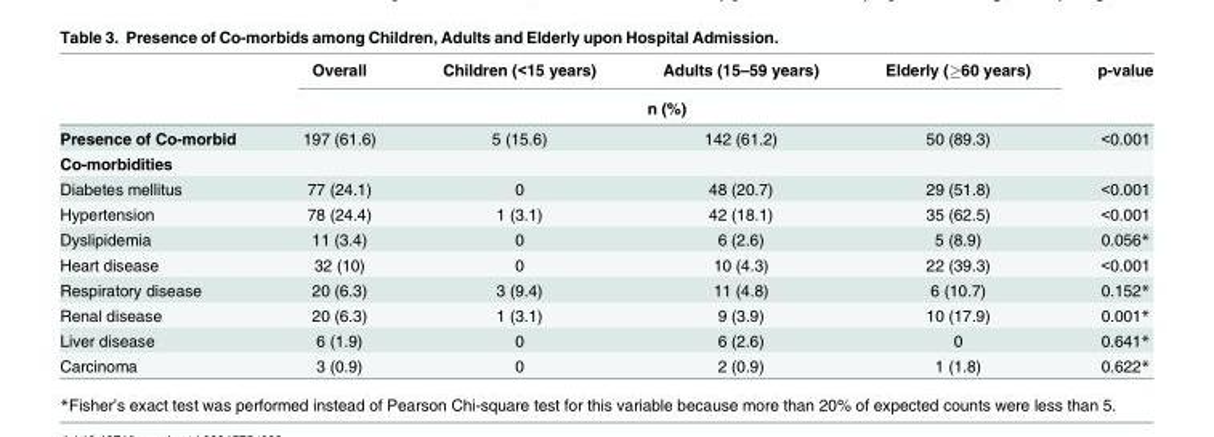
<table><thead><tr><td rowspan="2"></td><td>Overall</td><td>Children (&lt;15 years)</td><td>Adults (15–59 years)</td><td>Elderly (≥60 years)</td><td rowspan="2">p-value</td></tr><tr><td colspan="4">n (%)</td></tr></thead><tbody><tr><td>Presence of Co-morbid</td><td>197 (61.6)</td><td>5 (15.6)</td><td>142 (61.2)</td><td>50 (89.3)</td><td>&lt;0.001</td></tr><tr><td colspan="6">Co-morbidities</td></tr><tr><td>Diabetes mellitus</td><td>77 (24.1)</td><td>0</td><td>48 (20.7)</td><td>29 (51.8)</td><td>&lt;0.001</td></tr><tr><td>Hypertension</td><td>78 (24.4)</td><td>1 (3.1)</td><td>42 (18.1)</td><td>35 (62.5)</td><td>&lt;0.001</td></tr><tr><td>Dyslipidemia</td><td>11 (3.4)</td><td>0</td><td>6 (2.6)</td><td>5 (8.9)</td><td>0.056*</td></tr><tr><td>Heart disease</td><td>32 (10)</td><td>0</td><td>10 (4.3)</td><td>22 (39.3)</td><td>&lt;0.001</td></tr><tr><td>Respiratory disease</td><td>20 (6.3)</td><td>3 (9.4)</td><td>11 (4.8)</td><td>6 (10.7)</td><td>0.152*</td></tr><tr><td>Renal disease</td><td>20 (6.3)</td><td>1 (3.1)</td><td>9 (3.9)</td><td>10 (17.9)</td><td>0.001*</td></tr><tr><td>Liver disease</td><td>6 (1.9)</td><td>0</td><td>6 (2.6)</td><td>0</td><td>0.641*</td></tr><tr><td>Carcinoma</td><td>3 (0.9)</td><td>0</td><td>2 (0.9)</td><td>1 (1.8)</td><td>0.622*</td></tr></tbody></table>